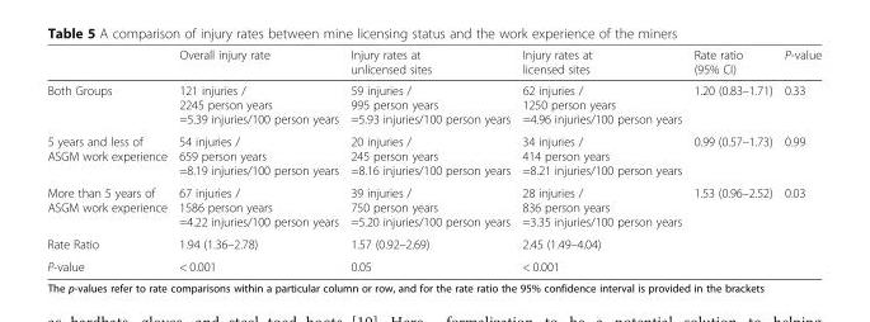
<table><thead><tr><td></td><td>Overall injury rate</td><td>Injury rates at unlicensed sites</td><td>Injury rates at licensed sites</td><td>Rate ratio (95% CI)</td><td>P-value</td></tr></thead><tbody><tr><td>Both Groups</td><td>121 injuries / 2245 person years =5.39 injuries/100 person years</td><td>59 injuries / 995 person years =5.93 injuries/100 person years</td><td>62 injuries / 1250 person years =4.96 injuries/100 person years</td><td>1.20 (0.83–1.71)</td><td>0.33</td></tr><tr><td>5 years and less of ASGM work experience</td><td>54 injuries / 659 person years =8.19 injuries/100 person years</td><td>20 injuries / 245 person years =8.16 injuries/100 person years</td><td>34 injuries / 414 person years =8.21 injuries/100 person years</td><td>0.99 (0.57–1.73)</td><td>0.99</td></tr><tr><td>More than 5 years of ASGM work experience</td><td>67 injuries / 1586 person years =4.22 injuries/100 person years</td><td>39 injuries / 750 person years =5.20 injuries/100 person years</td><td>28 injuries / 836 person years =3.35 injuries/100 person years</td><td>1.53 (0.96–2.52)</td><td>0.03</td></tr><tr><td>Rate Ratio</td><td>1.94 (1.36–2.78)</td><td>1.57 (0.92–2.69)</td><td>2.45 (1.49–4.04)</td><td></td><td></td></tr><tr><td>P-value</td><td>&lt; 0.001</td><td>0.05</td><td>&lt; 0.001</td><td></td><td></td></tr></tbody></table>